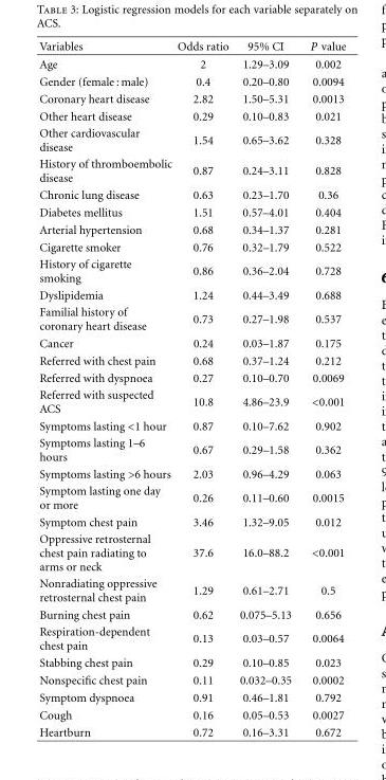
<table><thead><tr><td>Variables</td><td>Odds ratio</td><td>95% CI</td><td>P value</td></tr></thead><tbody><tr><td>Age</td><td>2</td><td>1.29–3.09</td><td>0.002</td></tr><tr><td>Gender (female : male)</td><td>0.4</td><td>0.20–0.80</td><td>0.0094</td></tr><tr><td>Coronary heart disease</td><td>2.82</td><td>1.50–5.31</td><td>0.0013</td></tr><tr><td>Other heart disease</td><td>0.29</td><td>0.10–0.83</td><td>0.021</td></tr><tr><td>Other cardiovascular disease</td><td>1.54</td><td>0.65–3.62</td><td>0.328</td></tr><tr><td>History of thromboembolic disease</td><td>0.87</td><td>0.24–3.11</td><td>0.828</td></tr><tr><td>Chronic lung disease</td><td>0.63</td><td>0.23–1.70</td><td>0.36</td></tr><tr><td>Diabetes mellitus</td><td>1.51</td><td>0.57–4.01</td><td>0.404</td></tr><tr><td>Arterial hypertension</td><td>0.68</td><td>0.34–1.37</td><td>0.281</td></tr><tr><td>Cigarette smoker</td><td>0.76</td><td>0.32–1.79</td><td>0.522</td></tr><tr><td>History of cigarette smoking</td><td>0.86</td><td>0.36–2.04</td><td>0.728</td></tr><tr><td>Dyslipidemia</td><td>1.24</td><td>0.44–3.49</td><td>0.688</td></tr><tr><td>Familial history of coronary heart disease</td><td>0.73</td><td>0.27–1.98</td><td>0.537</td></tr><tr><td>Cancer</td><td>0.24</td><td>0.03–1.87</td><td>0.175</td></tr><tr><td>Referred with chest pain</td><td>0.68</td><td>0.37–1.24</td><td>0.212</td></tr><tr><td>Referred with dyspnoea</td><td>0.27</td><td>0.10–0.70</td><td>0.0069</td></tr><tr><td>Referred with suspected ACS</td><td>10.8</td><td>4.86–23.9</td><td>&lt;0.001</td></tr><tr><td>Symptoms lasting &lt;1 hour</td><td>0.87</td><td>0.10–7.62</td><td>0.902</td></tr><tr><td>Symptoms lasting 1–6 hours</td><td>0.67</td><td>0.29–1.58</td><td>0.362</td></tr><tr><td>Symptoms lasting &gt;6 hours</td><td>2.03</td><td>0.96–4.29</td><td>0.063</td></tr><tr><td>Symptom lasting one day or more</td><td>0.26</td><td>0.11–0.60</td><td>0.0015</td></tr><tr><td>Symptom chest pain</td><td>3.46</td><td>1.32–9.05</td><td>0.012</td></tr><tr><td>Oppressive retrosternal chest pain radiating to arms or neck</td><td>37.6</td><td>16.0–88.2</td><td>&lt;0.001</td></tr><tr><td>Nonradiating oppressive retrosternal chest pain</td><td>1.29</td><td>0.61–2.71</td><td>0.5</td></tr><tr><td>Burning chest pain</td><td>0.62</td><td>0.075–5.13</td><td>0.656</td></tr><tr><td>Respiration-dependent chest pain</td><td>0.13</td><td>0.03–0.57</td><td>0.0064</td></tr><tr><td>Stabbing chest pain</td><td>0.29</td><td>0.10–0.85</td><td>0.023</td></tr><tr><td>Nonspecific chest pain</td><td>0.11</td><td>0.032–0.35</td><td>0.0002</td></tr><tr><td>Symptom dyspnoea</td><td>0.91</td><td>0.46–1.81</td><td>0.792</td></tr><tr><td>Cough</td><td>0.16</td><td>0.05–0.53</td><td>0.0027</td></tr><tr><td>Heartburn</td><td>0.72</td><td>0.16–3.31</td><td>0.672</td></tr></tbody></table>